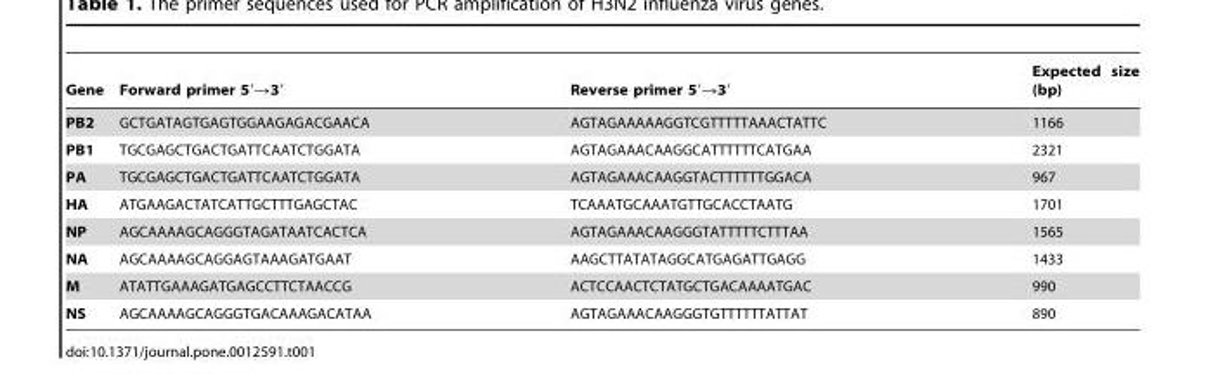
<table><thead><tr><td>Gene</td><td>Forward primer 5′→3′</td><td>Reverse primer 5′→3′</td><td>Expected size (bp)</td></tr></thead><tbody><tr><td>PB2</td><td>GCTGATAGTGAGTGGAAGAGACGAACA</td><td>AGTAGAAAAAGGTCGTTTTTAAACTATTC</td><td>1166</td></tr><tr><td>PB1</td><td>TGCGAGCTGACTGATTCAATCTGGATA</td><td>AGTAGAAACAAGGCATTTTTTCATGAA</td><td>2321</td></tr><tr><td>PA</td><td>TGCGAGCTGACTGATTCAATCTGGATA</td><td>AGTAGAAACAAGGTACTTTTTTGGACA</td><td>967</td></tr><tr><td>HA</td><td>ATGAAGACTATCATTGCTTTGAGCTAC</td><td>TCAAATGCAAATGTTGCACCTAATG</td><td>1701</td></tr><tr><td>NP</td><td>AGCAAAAGCAGGGTAGATAATCACTCA</td><td>AGTAGAAACAAGGGTATTTTTCTTTAA</td><td>1565</td></tr><tr><td>NA</td><td>AGCAAAAGCAGGAGTAAAGATGAAT</td><td>AAGCTTATATAGGCATGAGATTGAGG</td><td>1433</td></tr><tr><td>M</td><td>ATATTGAAAGATGAGCCTTCTAACCG</td><td>ACTCCAACTCTATGCTGACAAAATGAC</td><td>990</td></tr><tr><td>NS</td><td>AGCAAAAGCAGGGTGACAAAGACATAA</td><td>AGTAGAAACAAGGGTGTTTTTTATTAT</td><td>890</td></tr></tbody></table>